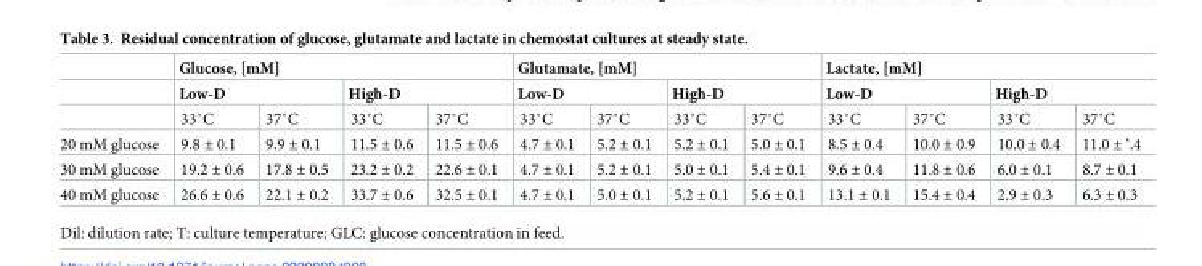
<table><thead><tr><td rowspan="3"></td><td colspan="4">Glucose, [mM]</td><td colspan="4">Glutamate, [mM]</td><td colspan="4">Lactate, [mM]</td></tr><tr><td colspan="2">Low-D</td><td colspan="2">High-D</td><td colspan="2">Low-D</td><td colspan="2">High-D</td><td colspan="2">Low-D</td><td colspan="2">High-D</td></tr><tr><td>33˚C</td><td>37˚C</td><td>33˚C</td><td>37˚C</td><td>33˚C</td><td>37˚C</td><td>33˚C</td><td>37˚C</td><td>33˚C</td><td>37˚C</td><td>33˚C</td><td>37˚C</td></tr></thead><tbody><tr><td>20 mM glucose</td><td>9.8 ± 0.1</td><td>9.9 ± 0.1</td><td>11.5 ± 0.6</td><td>11.5 ± 0.6</td><td>4.7 ± 0.1</td><td>5.2 ± 0.1</td><td>5.2 ± 0.1</td><td>5.0 ± 0.1</td><td>8.5 ± 0.4</td><td>10.0 ± 0.9</td><td>10.0 ± 0.4</td><td>11.0 ± ‘.4</td></tr><tr><td>30 mM glucose</td><td>19.2 ± 0.6</td><td>17.8 ± 0.5</td><td>23.2 ± 0.2</td><td>22.6 ± 0.1</td><td>4.7 ± 0.1</td><td>5.2 ± 0.1</td><td>5.0 ± 0.1</td><td>5.4 ± 0.1</td><td>9.6 ± 0.4</td><td>11.8 ± 0.6</td><td>6.0 ± 0.1</td><td>8.7 ± 0.1</td></tr><tr><td>40 mM glucose</td><td>26.6 ± 0.6</td><td>22.1 ± 0.2</td><td>33.7 ± 0.6</td><td>32.5 ± 0.1</td><td>4.7 ± 0.1</td><td>5.0 ± 0.1</td><td>5.2 ± 0.1</td><td>5.6 ± 0.1</td><td>13.1 ± 0.1</td><td>15.4 ± 0.4</td><td>2.9 ± 0.3</td><td>6.3 ± 0.3</td></tr></tbody></table>